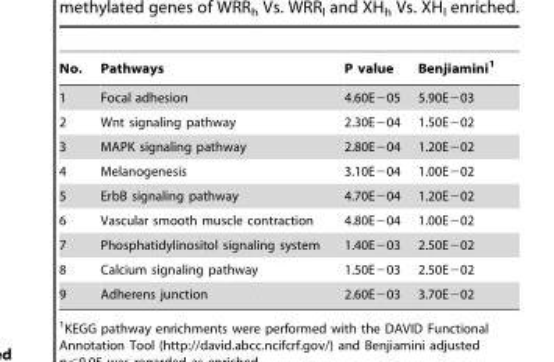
<table><thead><tr><td>No.</td><td>Pathways</td><td>P value</td><td>Benjiamini<sup>1</sup></td></tr></thead><tbody><tr><td>1</td><td>Focal adhesion</td><td>4.60E−05</td><td>5.90E−03</td></tr><tr><td>2</td><td>Wnt signaling pathway</td><td>2.30E−04</td><td>1.50E−02</td></tr><tr><td>3</td><td>MAPK signaling pathway</td><td>2.80E−04</td><td>1.20E−02</td></tr><tr><td>4</td><td>Melanogenesis</td><td>3.10E−04</td><td>1.00E−02</td></tr><tr><td>5</td><td>ErbB signaling pathway</td><td>4.70E−04</td><td>1.20E−02</td></tr><tr><td>6</td><td>Vascular smooth muscle contraction</td><td>4.80E−04</td><td>1.00E−02</td></tr><tr><td>7</td><td>Phosphatidylinositol signaling system</td><td>1.40E−03</td><td>2.50E−02</td></tr><tr><td>8</td><td>Calcium signaling pathway</td><td>1.50E−03</td><td>2.50E−02</td></tr><tr><td>9</td><td>Adherens junction</td><td>2.60E−03</td><td>3.70E−02</td></tr></tbody></table>